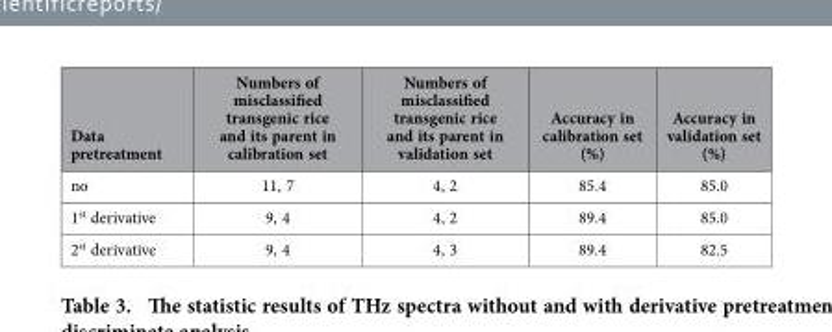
<table><thead><tr><td>Data pretreatment</td><td>Numbers of misclassified transgenic rice and its parent in calibration set</td><td>Numbers of misclassified transgenic rice and its parent in validation set</td><td>Accuracy in calibration set (%)</td><td>Accuracy in validation set (%)</td></tr></thead><tbody><tr><td>no</td><td>11, 7</td><td>4, 2</td><td>85.4</td><td>85.0</td></tr><tr><td>1<sup>st</sup> derivative</td><td>9, 4</td><td>4, 2</td><td>89.4</td><td>85.0</td></tr><tr><td>2<sup>st</sup> derivative</td><td>9, 4</td><td>4, 3</td><td>89.4</td><td>82.5</td></tr></tbody></table>